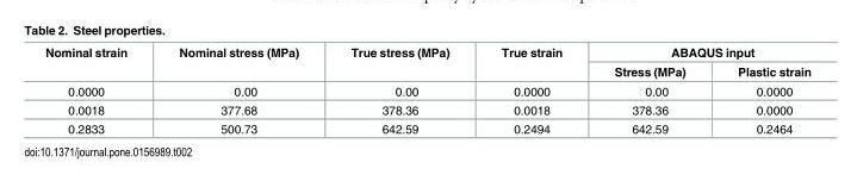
<table><thead><tr><td rowspan="2">Nominal strain</td><td rowspan="2">Nominal stress (MPa)</td><td rowspan="2">True stress (MPa)</td><td rowspan="2">True strain</td><td colspan="2">ABAQUS input</td></tr><tr><td>Stress (MPa)</td><td>Plastic strain</td></tr></thead><tbody><tr><td>0.0000</td><td>0.00</td><td>0.00</td><td>0.0000</td><td>0.00</td><td>0.0000</td></tr><tr><td>0.0018</td><td>377.68</td><td>378.36</td><td>0.0018</td><td>378.36</td><td>0.0000</td></tr><tr><td>0.2833</td><td>500.73</td><td>642.59</td><td>0.2494</td><td>642.59</td><td>0.2464</td></tr></tbody></table>